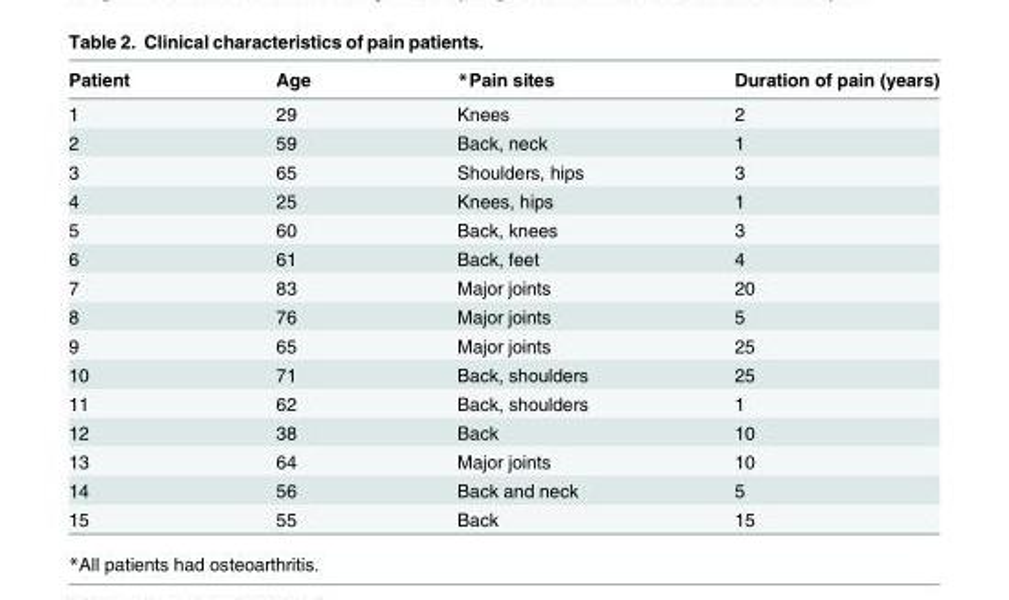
<table><thead><tr><td>Patient</td><td>Age</td><td>*Pain sites</td><td>Duration of pain (years)</td></tr></thead><tbody><tr><td>1</td><td>29</td><td>Knees</td><td>2</td></tr><tr><td>2</td><td>59</td><td>Back, neck</td><td>1</td></tr><tr><td>3</td><td>65</td><td>Shoulders, hips</td><td>3</td></tr><tr><td>4</td><td>25</td><td>Knees, hips</td><td>1</td></tr><tr><td>5</td><td>60</td><td>Back, knees</td><td>3</td></tr><tr><td>6</td><td>61</td><td>Back, feet</td><td>4</td></tr><tr><td>7</td><td>83</td><td>Major joints</td><td>20</td></tr><tr><td>8</td><td>76</td><td>Major joints</td><td>5</td></tr><tr><td>9</td><td>65</td><td>Major joints</td><td>25</td></tr><tr><td>10</td><td>71</td><td>Back, shoulders</td><td>25</td></tr><tr><td>11</td><td>62</td><td>Back, shoulders</td><td>1</td></tr><tr><td>12</td><td>38</td><td>Back</td><td>10</td></tr><tr><td>13</td><td>64</td><td>Major joints</td><td>10</td></tr><tr><td>14</td><td>56</td><td>Back and neck</td><td>5</td></tr><tr><td>15</td><td>55</td><td>Back</td><td>15</td></tr></tbody></table>